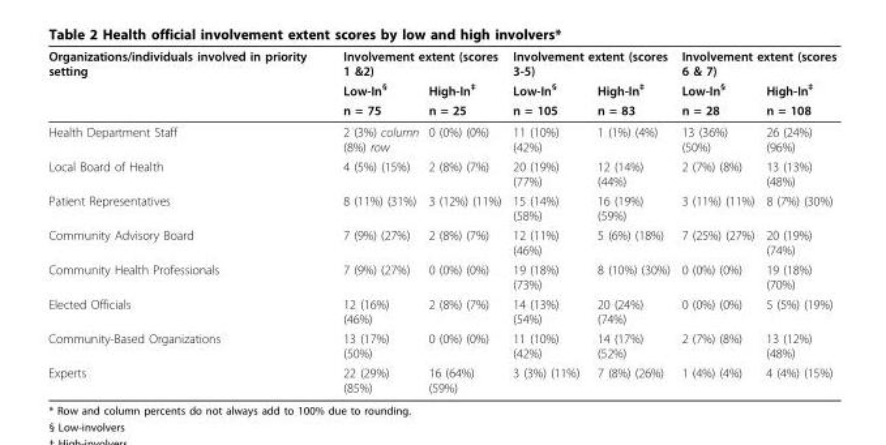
<table><thead><tr><td rowspan="3">Organizations/individuals involved in priority setting</td><td colspan="2">Involvement extent (scores 1 &amp;2)</td><td colspan="2">Involvement extent (scores 3-5)</td><td colspan="2">Involvement extent (scores 6 &amp; 7)</td></tr><tr><td rowspan="2">Low-In<sup>§</sup> n = 75</td><td rowspan="2">High-In<sup>‡</sup> n = 25</td><td rowspan="2">Low-In<sup>§</sup> n = 105</td><td rowspan="2">High-In<sup>‡</sup> n = 83</td><td rowspan="2">Low-In<sup>§</sup> n = 28</td><td rowspan="2">High-In<sup>‡</sup> n = 108</td></tr><tr></tr></thead><tbody><tr><td>Health Department Staff</td><td>2 (3%) column (8%) row</td><td>0 (0%) (0%)</td><td>11 (10%) (42%)</td><td>1 (1%) (4%)</td><td>13 (36%) (50%)</td><td>26 (24%) (96%)</td></tr><tr><td>Local Board of Health</td><td>4 (5%) (15%)</td><td>2 (8%) (7%)</td><td>20 (19%) (77%)</td><td>12 (14%) (44%)</td><td>2 (7%) (8%)</td><td>13 (13%) (48%)</td></tr><tr><td>Patient Representatives</td><td>8 (11%) (31%)</td><td>3 (12%) (11%)</td><td>15 (14%) (58%)</td><td>16 (19%) (59%)</td><td>3 (11%) (11%)</td><td>8 (7%) (30%)</td></tr><tr><td>Community Advisory Board</td><td>7 (9%) (27%)</td><td>2 (8%) (7%)</td><td>12 (11%) (46%)</td><td>5 (6%) (18%)</td><td>7 (25%) (27%)</td><td>20 (19%) (74%)</td></tr><tr><td>Community Health Professionals</td><td>7 (9%) (27%)</td><td>0 (0%) (0%)</td><td>19 (18%) (73%)</td><td>8 (10%) (30%)</td><td>0 (0%) (0%)</td><td>19 (18%) (70%)</td></tr><tr><td>Elected Officials</td><td>12 (16%) (46%)</td><td>2 (8%) (7%)</td><td>14 (13%) (54%)</td><td>20 (24%) (74%)</td><td>0 (0%) (0%)</td><td>5 (5%) (19%)</td></tr><tr><td>Community-Based Organizations</td><td>13 (17%) (50%)</td><td>0 (0%) (0%)</td><td>11 (10%) (42%)</td><td>14 (17%) (52%)</td><td>2 (7%) (8%)</td><td>13 (12%) (48%)</td></tr><tr><td>Experts</td><td>22 (29%) (85%)</td><td>16 (64%) (59%)</td><td>3 (3%) (11%)</td><td>7 (8%) (26%)</td><td>1 (4%) (4%)</td><td>4 (4%) (15%)</td></tr></tbody></table>